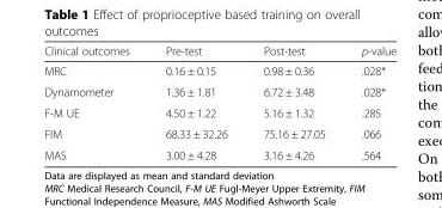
<table><thead><tr><td>Clinical outcomes</td><td>Pre-test</td><td>Post-test</td><td>p-value</td></tr></thead><tbody><tr><td>MRC</td><td>0.16 ± 0.15</td><td>0.98 ± 0.36</td><td>.028*</td></tr><tr><td>Dynamometer</td><td>1.36 ± 1.81</td><td>6.72 ± 3.48</td><td>.028*</td></tr><tr><td>F-M UE</td><td>4.50 ± 1.22</td><td>5.16 ± 1.32</td><td>.285</td></tr><tr><td>FIM</td><td>68.33 ± 32.26</td><td>75.16 ± 27.05</td><td>.066</td></tr><tr><td>MAS</td><td>3.00 ± 4.28</td><td>3.16 ± 4.26</td><td>.564</td></tr></tbody></table>